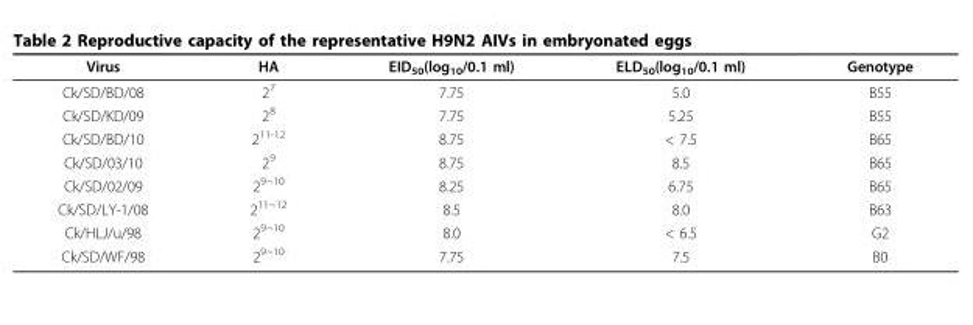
<table><tbody><tr><td>Virus</td><td>HA</td><td>EID<sub>50</sub>(log<sub>10</sub>/0.1 ml)</td><td>ELD<sub>50</sub>(log<sub>10</sub>/0.1 ml)</td><td>Genotype</td></tr><tr><td>Ck/SD/BD/08</td><td>2<sup>7</sup></td><td>7.75</td><td>5.0</td><td>B55</td></tr><tr><td>Ck/SD/KD/09</td><td>2<sup>8</sup></td><td>7.75</td><td>5.25</td><td>B55</td></tr><tr><td>Ck/SD/BD/10</td><td>2<sup>11-12</sup></td><td>8.75</td><td>&lt; 7.5</td><td>B65</td></tr><tr><td>Ck/SD/03/10</td><td>2<sup>9</sup></td><td>8.75</td><td>8.5</td><td>B65</td></tr><tr><td>Ck/SD/02/09</td><td>2<sup>9~10</sup></td><td>8.25</td><td>6.75</td><td>B65</td></tr><tr><td>Ck/SD/LY-1/08</td><td>2<sup>11~12</sup></td><td>8.5</td><td>8.0</td><td>B63</td></tr><tr><td>Ck/HLJ/u/98</td><td>2<sup>9~10</sup></td><td>8.0</td><td>&lt; 6.5</td><td>G2</td></tr><tr><td>Ck/SD/WF/98</td><td>2<sup>9~10</sup></td><td>7.75</td><td>7.5</td><td>B0</td></tr></tbody></table>